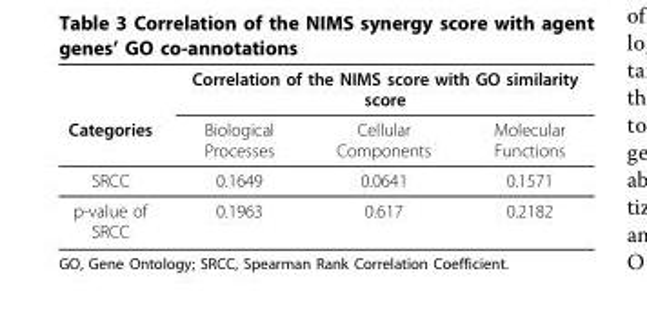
<table><thead><tr><td rowspan="2">Categories</td><td colspan="3">Correlation of the NIMS score with GO similarity score</td></tr><tr><td>Biological Processes</td><td>Cellular Components</td><td>Molecular Functions</td></tr></thead><tbody><tr><td>SRCC</td><td>0.1649</td><td>0.0641</td><td>0.1571</td></tr><tr><td>p-value of SRCC</td><td>0.1963</td><td>0.617</td><td>0.2182</td></tr></tbody></table>